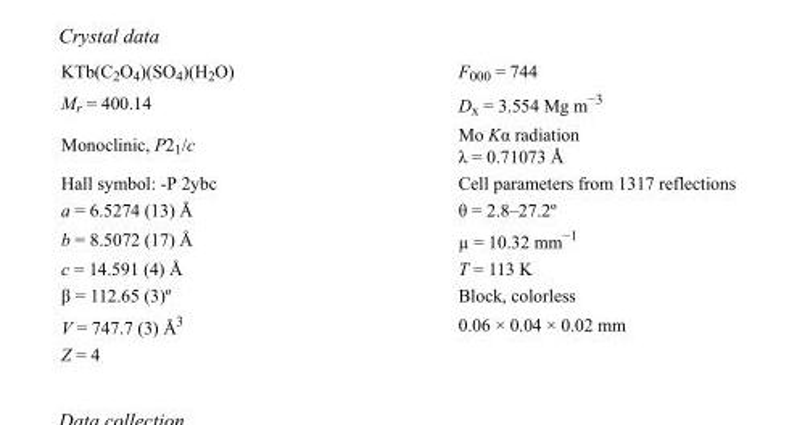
<table><tbody><tr><td>KTb(C<sub>2</sub>O<sub>4</sub>)(SO<sub>4</sub>)(H<sub>2</sub>O)</td><td>F000 = 744</td></tr><tr><td>M<sub>r</sub> = 400.14</td><td>D<sub>x</sub> = 3.554 Mg m<sup>−3</sup></td></tr><tr><td>Monoclinic, P2<sub>1</sub>/c</td><td>Mo Kα radiation λ = 0.71073 Å</td></tr><tr><td>Hall symbol: -P 2ybc</td><td>Cell parameters from 1317 reflections</td></tr><tr><td>a = 6.5274 (13) Å</td><td>θ = 2.8–27.2º</td></tr><tr><td>b = 8.5072 (17) Å</td><td>µ = 10.32 mm<sup>−1</sup></td></tr><tr><td>c = 14.591 (4) Å</td><td>T = 113 K</td></tr><tr><td>β = 112.65 (3)º</td><td>Block, colorless</td></tr><tr><td>V = 747.7 (3) Å<sup>3</sup></td><td>0.06 × 0.04 × 0.02 mm</td></tr><tr><td>Z = 4</td><td></td></tr></tbody></table>